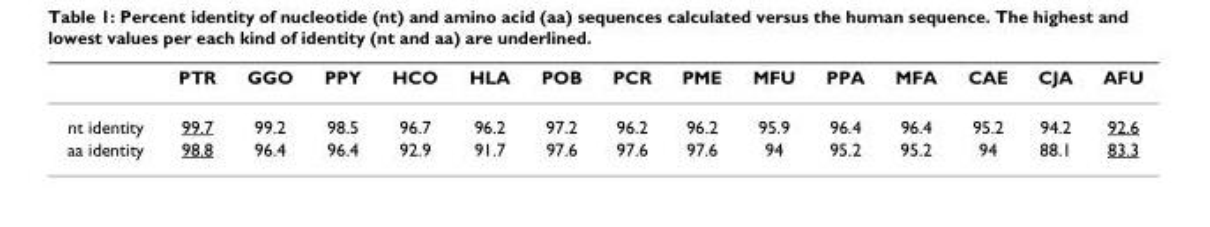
<table><thead><tr><td></td><td>PTR</td><td>GGO</td><td>PPY</td><td>HCO</td><td>HLA</td><td>POB</td><td>PCR</td><td>PME</td><td>MFU</td><td>PPA</td><td>MFA</td><td>CAE</td><td>CJA</td><td>AFU</td></tr></thead><tbody><tr><td>nt identity</td><td>99.7</td><td>99.2</td><td>98.5</td><td>96.7</td><td>96.2</td><td>97.2</td><td>96.2</td><td>96.2</td><td>95.9</td><td>96.4</td><td>96.4</td><td>95.2</td><td>94.2</td><td>92.6</td></tr><tr><td>aa identity</td><td>98.8</td><td>96.4</td><td>96.4</td><td>92.9</td><td>91.7</td><td>97.6</td><td>97.6</td><td>97.6</td><td>94</td><td>95.2</td><td>95.2</td><td>94</td><td>88.1</td><td>83.3</td></tr></tbody></table>